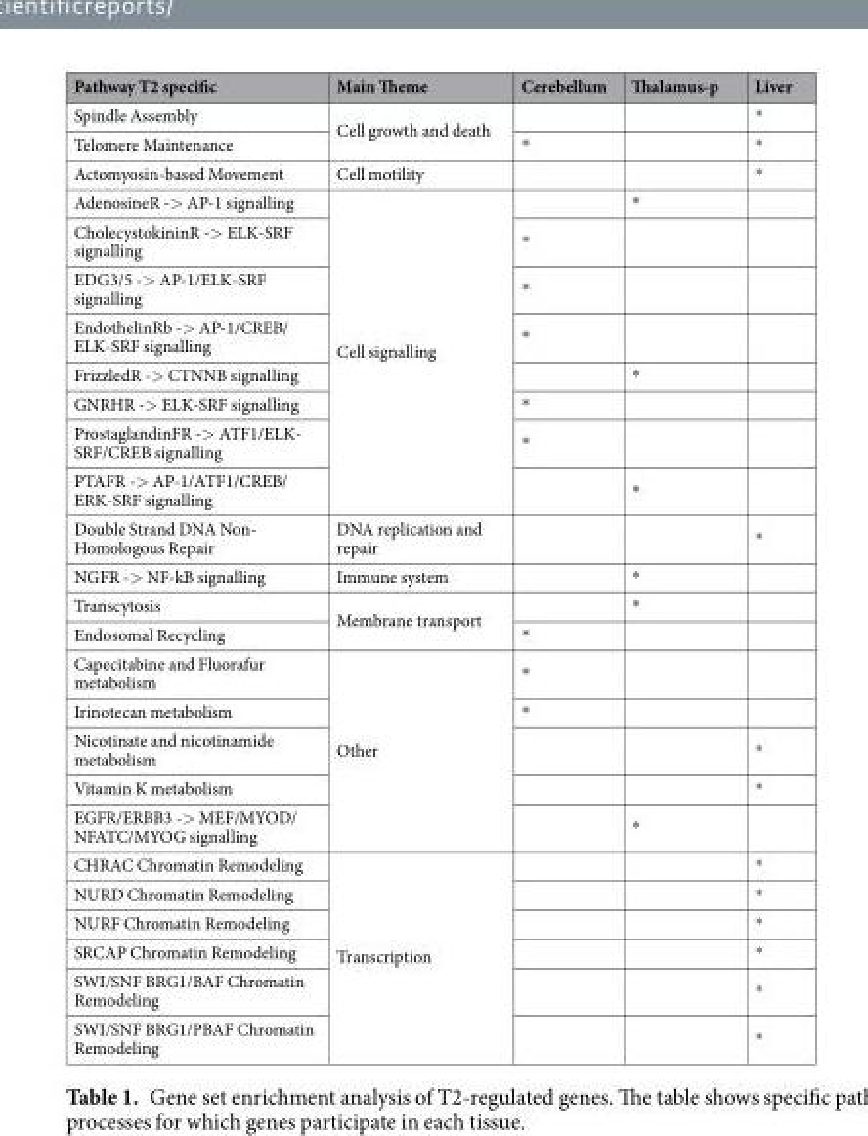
<table><thead><tr><td>Pathway T2 specific</td><td>Main Theme</td><td>Cerebellum</td><td>Thalamus-p</td><td>Liver</td></tr></thead><tbody><tr><td>Spindle Assembly</td><td rowspan="2">Cell growth and death</td><td></td><td></td><td>*</td></tr><tr><td>Telomere Maintenance</td><td>*</td><td></td><td>*</td></tr><tr><td>Actomyosin-based Movement</td><td>Cell motility</td><td></td><td></td><td>*</td></tr><tr><td>AdenosineR -&gt; AP-1 signalling</td><td rowspan="8">Cell signalling</td><td></td><td>*</td><td></td></tr><tr><td>CholecystokininR -&gt; ELK-SRF signalling</td><td>*</td><td></td><td></td></tr><tr><td>EDG3/5 -&gt; AP-1/ELK-SRF signalling</td><td>*</td><td></td><td></td></tr><tr><td>EndothelinRb -&gt; AP-1/CREB/ ELK-SRF signalling</td><td>*</td><td></td><td></td></tr><tr><td>FrizzledR -&gt; CTNNB signalling</td><td></td><td>*</td><td></td></tr><tr><td>GNRHR -&gt; ELK-SRF signalling</td><td>*</td><td></td><td></td></tr><tr><td>ProstaglandinFR -&gt; ATF1/ELK- SRF/CREB signalling</td><td>*</td><td></td><td></td></tr><tr><td>PTAFR -&gt; AP-1/ATF1/CREB/ ERK-SRF signalling</td><td></td><td>*</td><td></td></tr><tr><td>Double Strand DNA Non- Homologous Repair</td><td>DNA replication and repair</td><td></td><td></td><td>*</td></tr><tr><td>NGFR -&gt; NF-kB signalling</td><td>Immune system</td><td></td><td>*</td><td></td></tr><tr><td>Transcytosis</td><td rowspan="2">Membrane transport</td><td></td><td>*</td><td></td></tr><tr><td>Endosomal Recycling</td><td>*</td><td></td><td></td></tr><tr><td>Capecitabine and Fluorafur metabolism</td><td rowspan="5">Other</td><td>*</td><td></td><td></td></tr><tr><td>Irinotecan metabolism</td><td>*</td><td></td><td></td></tr><tr><td>Nicotinate and nicotinamide metabolism</td><td></td><td></td><td>*</td></tr><tr><td>Vitamin K metabolism</td><td></td><td></td><td>*</td></tr><tr><td>EGFR/ERBB3 -&gt; MEF/MYOD/ NFATC/MYOG signalling</td><td></td><td>*</td><td></td></tr><tr><td>CHRAC Chromatin Remodeling</td><td rowspan="6">Transcription</td><td></td><td></td><td>*</td></tr><tr><td>NURD Chromatin Remodeling</td><td></td><td></td><td>*</td></tr><tr><td>NURF Chromatin Remodeling</td><td></td><td></td><td>*</td></tr><tr><td>SRCAP Chromatin Remodeling</td><td></td><td></td><td>*</td></tr><tr><td>SWI/SNF BRG1/BAF Chromatin Remodeling</td><td></td><td></td><td>*</td></tr><tr><td>SWI/SNF BRG1/PBAF Chromatin Remodeling</td><td></td><td></td><td>*</td></tr></tbody></table>